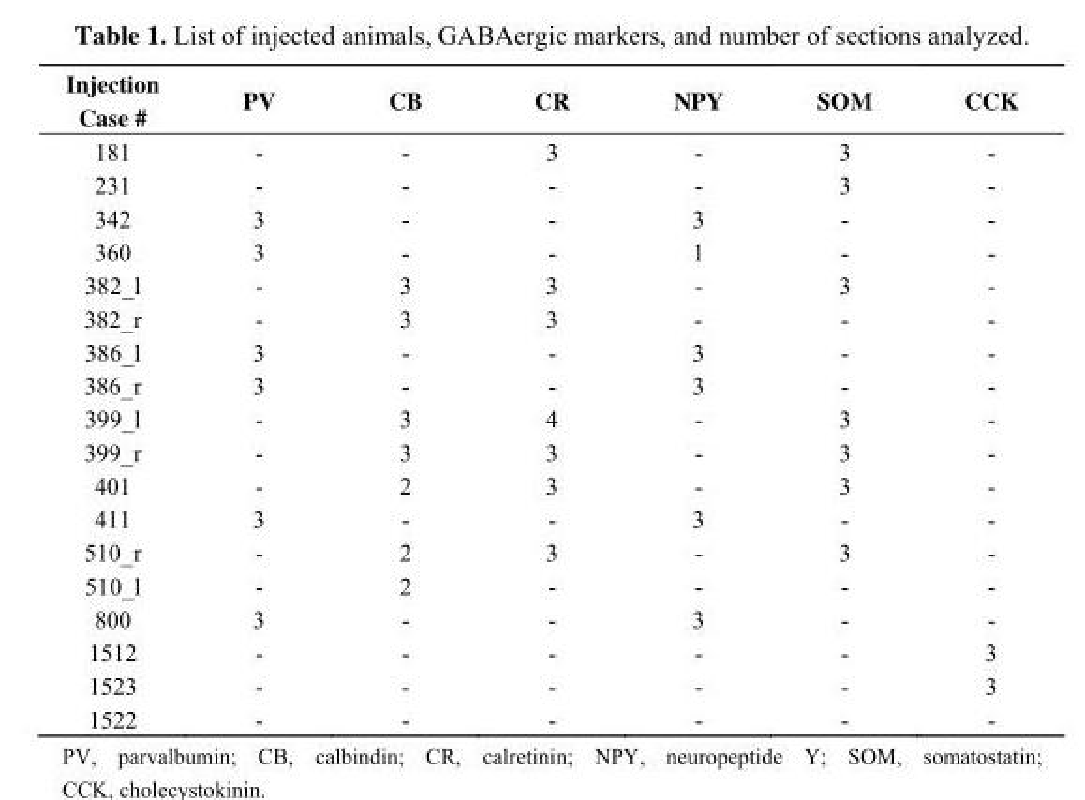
<table><thead><tr><td>Injection Case #</td><td>PV</td><td>CB</td><td>CR</td><td>NPY</td><td>SOM</td><td>CCK</td></tr></thead><tbody><tr><td>181</td><td>-</td><td>-</td><td>3</td><td>-</td><td>3</td><td>-</td></tr><tr><td>231</td><td>-</td><td>-</td><td>-</td><td>-</td><td>3</td><td>-</td></tr><tr><td>342</td><td>3</td><td>-</td><td>-</td><td>3</td><td>-</td><td>-</td></tr><tr><td>360</td><td>3</td><td>-</td><td>-</td><td>1</td><td>-</td><td>-</td></tr><tr><td>382_l</td><td>-</td><td>3</td><td>3</td><td>-</td><td>3</td><td>-</td></tr><tr><td>382_r</td><td>-</td><td>3</td><td>3</td><td>-</td><td>-</td><td>-</td></tr><tr><td>386_l</td><td>3</td><td>-</td><td>-</td><td>3</td><td>-</td><td>-</td></tr><tr><td>386_r</td><td>3</td><td>-</td><td>-</td><td>3</td><td>-</td><td>-</td></tr><tr><td>399_l</td><td>-</td><td>3</td><td>4</td><td>-</td><td>3</td><td>-</td></tr><tr><td>399_r</td><td>-</td><td>3</td><td>3</td><td>-</td><td>3</td><td>-</td></tr><tr><td>401</td><td>-</td><td>2</td><td>3</td><td>-</td><td>3</td><td>-</td></tr><tr><td>411</td><td>3</td><td>-</td><td>-</td><td>3</td><td>-</td><td>-</td></tr><tr><td>510_r</td><td>-</td><td>2</td><td>3</td><td>-</td><td>3</td><td>-</td></tr><tr><td>510_l</td><td>-</td><td>2</td><td>-</td><td>-</td><td>-</td><td>-</td></tr><tr><td>800</td><td>3</td><td>-</td><td>-</td><td>3</td><td>-</td><td>-</td></tr><tr><td>1512</td><td>-</td><td>-</td><td>-</td><td>-</td><td>-</td><td>3</td></tr><tr><td>1523</td><td>-</td><td>-</td><td>-</td><td>-</td><td>-</td><td>3</td></tr><tr><td>1522</td><td>-</td><td>-</td><td>-</td><td>-</td><td>-</td><td>-</td></tr></tbody></table>